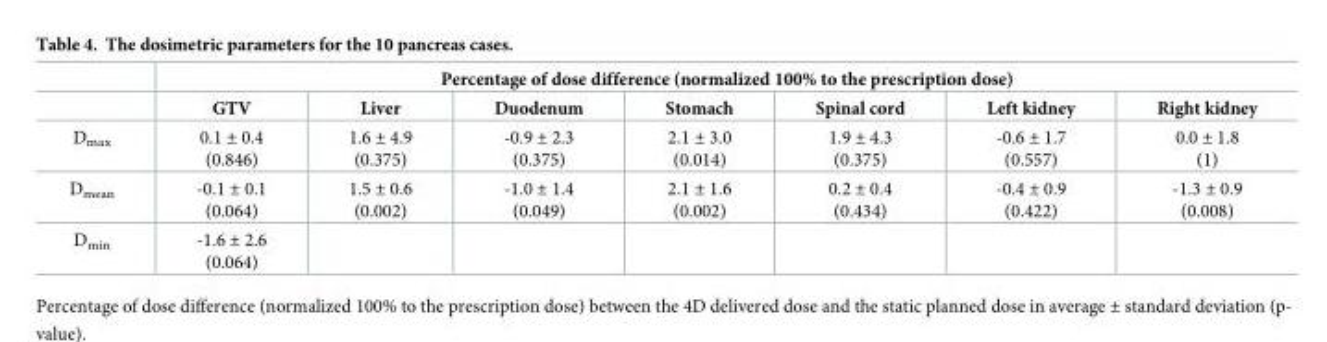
<table><thead><tr><td rowspan="2"></td><td colspan="7">Percentage of dose difference (normalized 100% to the prescription dose)</td></tr><tr><td>GTV</td><td>Liver</td><td>Duodenum</td><td>Stomach</td><td>Spinal cord</td><td>Left kidney</td><td>Right kidney</td></tr></thead><tbody><tr><td>D<sub>max</sub></td><td>0.1 ± 0.4 (0.846)</td><td>1.6 ± 4.9 (0.375)</td><td>-0.9 ± 2.3 (0.375)</td><td>2.1 ± 3.0 (0.014)</td><td>1.9 ± 4.3 (0.375)</td><td>-0.6 ± 1.7 (0.557)</td><td>0.0 ± 1.8 (1)</td></tr><tr><td>D<sub>mean</sub></td><td>-0.1 ± 0.1 (0.064)</td><td>1.5 ± 0.6 (0.002)</td><td>-1.0 ± 1.4 (0.049)</td><td>2.1 ± 1.6 (0.002)</td><td>0.2 ± 0.4 (0.434)</td><td>-0.4 ± 0.9 (0.422)</td><td>-1.3 ± 0.9 (0.008)</td></tr><tr><td>D<sub>min</sub></td><td>-1.6 ± 2.6 (0.064)</td><td></td><td></td><td></td><td></td><td></td><td></td></tr></tbody></table>